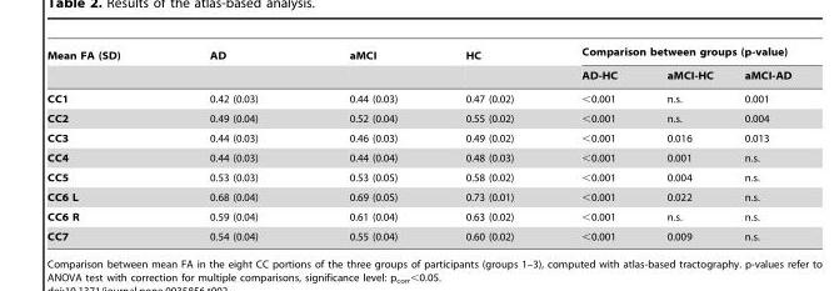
<table><thead><tr><td rowspan="2">Mean FA (SD)</td><td rowspan="2">AD</td><td rowspan="2">aMCI</td><td rowspan="2">HC</td><td colspan="3">Comparison between groups (p-value)</td></tr><tr><td>AD-HC</td><td>aMCI-HC</td><td>aMCI-AD</td></tr></thead><tbody><tr><td>CC1</td><td>0.42 (0.03)</td><td>0.44 (0.03)</td><td>0.47 (0.02)</td><td>&lt;0.001</td><td>n.s.</td><td>0.001</td></tr><tr><td>CC2</td><td>0.49 (0.04)</td><td>0.52 (0.04)</td><td>0.55 (0.02)</td><td>&lt;0.001</td><td>n.s.</td><td>0.004</td></tr><tr><td>CC3</td><td>0.44 (0.03)</td><td>0.46 (0.03)</td><td>0.49 (0.02)</td><td>&lt;0.001</td><td>0.016</td><td>0.013</td></tr><tr><td>CC4</td><td>0.44 (0.03)</td><td>0.44 (0.04)</td><td>0.48 (0.03)</td><td>&lt;0.001</td><td>0.001</td><td>n.s.</td></tr><tr><td>CC5</td><td>0.53 (0.03)</td><td>0.53 (0.05)</td><td>0.58 (0.02)</td><td>&lt;0.001</td><td>0.004</td><td>n.s.</td></tr><tr><td>CC6 L</td><td>0.68 (0.04)</td><td>0.69 (0.05)</td><td>0.73 (0.01)</td><td>&lt;0.001</td><td>0.022</td><td>n.s.</td></tr><tr><td>CC6 R</td><td>0.59 (0.04)</td><td>0.61 (0.04)</td><td>0.63 (0.02)</td><td>&lt;0.001</td><td>n.s.</td><td>n.s.</td></tr><tr><td>CC7</td><td>0.54 (0.04)</td><td>0.55 (0.04)</td><td>0.60 (0.02)</td><td>&lt;0.001</td><td>0.009</td><td>n.s.</td></tr></tbody></table>